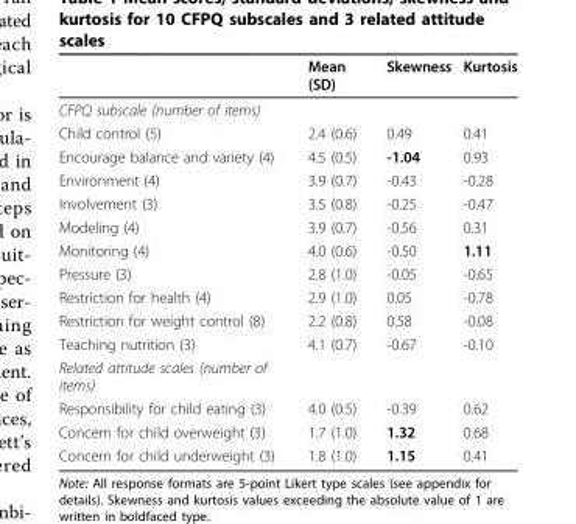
<table><thead><tr><td></td><td>Mean (SD)</td><td>Skewness</td><td>Kurtosis</td></tr></thead><tbody><tr><td colspan="4">CFPQ subscale (number of items)</td></tr><tr><td>Child control (5)</td><td>2.4 (0.6)</td><td>0.49</td><td>0.41</td></tr><tr><td>Encourage balance and variety (4)</td><td>4.5 (0.5)</td><td>-1.04</td><td>0.93</td></tr><tr><td>Environment (4)</td><td>3.9 (0.7)</td><td>-0.43</td><td>-0.28</td></tr><tr><td>Involvement (3)</td><td>3.5 (0.8)</td><td>-0.25</td><td>-0.47</td></tr><tr><td>Modeling (4)</td><td>3.9 (0.7)</td><td>-0.56</td><td>0.31</td></tr><tr><td>Monitoring (4)</td><td>4.0 (0.6)</td><td>-0.50</td><td>1.11</td></tr><tr><td>Pressure (3)</td><td>2.8 (1.0)</td><td>-0.05</td><td>-0.65</td></tr><tr><td>Restriction for health (4)</td><td>2.9 (1.0)</td><td>0.05</td><td>-0.78</td></tr><tr><td>Restriction for weight control (8)</td><td>2.2 (0.8)</td><td>0.58</td><td>-0.08</td></tr><tr><td>Teaching nutrition (3)</td><td>4.1 (0.7)</td><td>-0.67</td><td>-0.10</td></tr><tr><td colspan="4">Related attitude scales (number of items)</td></tr><tr><td>Responsibility for child eating (3)</td><td>4.0 (0.5)</td><td>-0.39</td><td>0.62</td></tr><tr><td>Concern for child overweight (3)</td><td>1.7 (1.0)</td><td>1.32</td><td>0.68</td></tr><tr><td>Concern for child underweight (3)</td><td>1.8 (1.0)</td><td>1.15</td><td>0.41</td></tr></tbody></table>